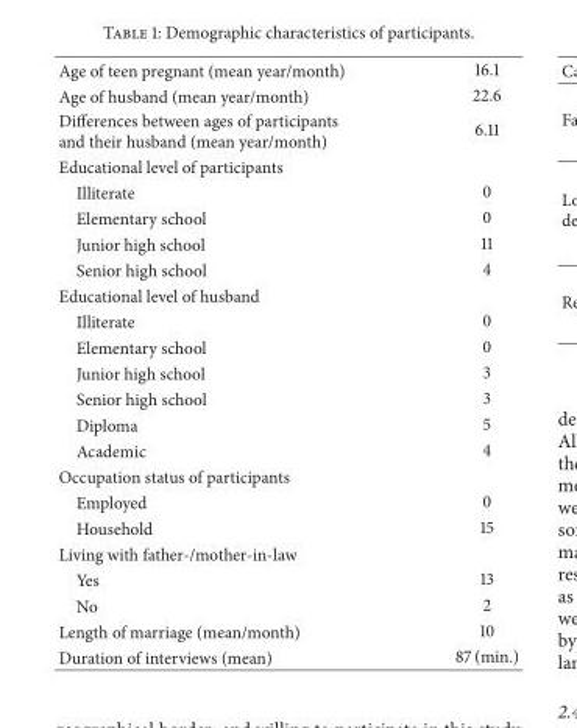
<table><tbody><tr><td>Age of teen pregnant (mean year/month)</td><td>16.1</td></tr><tr><td>Age of husband (mean year/month)</td><td>22.6</td></tr><tr><td>Differences between ages of participants and their husband (mean year/month)</td><td>6.11</td></tr><tr><td colspan="2">Educational level of participants</td></tr><tr><td>Illiterate</td><td>0</td></tr><tr><td>Elementary school</td><td>0</td></tr><tr><td>Junior high school</td><td>11</td></tr><tr><td>Senior high school</td><td>4</td></tr><tr><td colspan="2">Educational level of husband</td></tr><tr><td>Illiterate</td><td>0</td></tr><tr><td>Elementary school</td><td>0</td></tr><tr><td>Junior high school</td><td>3</td></tr><tr><td>Senior high school</td><td>3</td></tr><tr><td>Diploma</td><td>5</td></tr><tr><td>Academic</td><td>4</td></tr><tr><td colspan="2">Occupation status of participants</td></tr><tr><td>Employed</td><td>0</td></tr><tr><td>Household</td><td>15</td></tr><tr><td colspan="2">Living with father-/mother-in-law</td></tr><tr><td>Yes</td><td>13</td></tr><tr><td>No</td><td>2</td></tr><tr><td>Length of marriage (mean/month)</td><td>10</td></tr><tr><td>Duration of interviews (mean)</td><td>87 (min.)</td></tr></tbody></table>